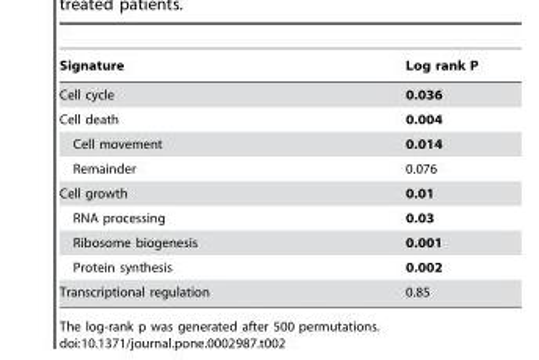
<table><thead><tr><td>Signature</td><td>Log rank P</td></tr></thead><tbody><tr><td>Cell cycle</td><td>0.036</td></tr><tr><td>Cell death</td><td>0.004</td></tr><tr><td>Cell movement</td><td>0.014</td></tr><tr><td>Remainder</td><td>0.076</td></tr><tr><td>Cell growth</td><td>0.01</td></tr><tr><td>RNA processing</td><td>0.03</td></tr><tr><td>Ribosome biogenesis</td><td>0.001</td></tr><tr><td>Protein synthesis</td><td>0.002</td></tr><tr><td>Transcriptional regulation</td><td>0.85</td></tr></tbody></table>